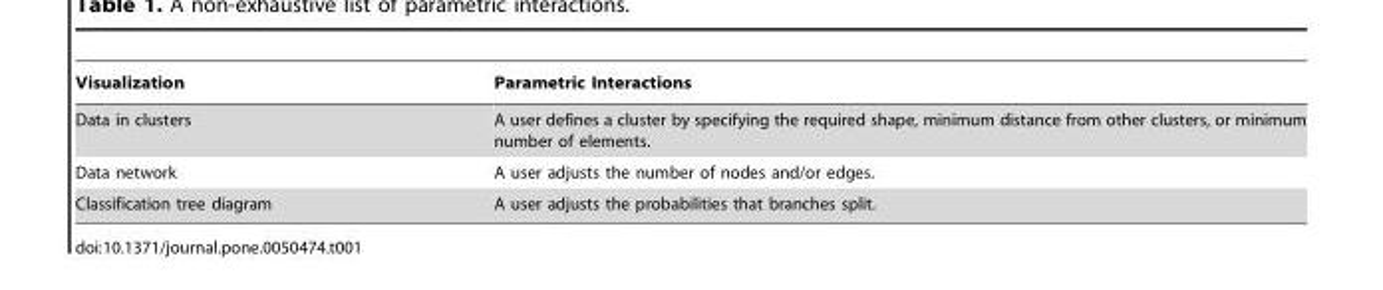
<table><thead><tr><td>Visualization</td><td>Parametric Interactions</td></tr></thead><tbody><tr><td>Data in clusters</td><td>A user defines a cluster by specifying the required shape, minimum distance from other clusters, or minimum number of elements.</td></tr><tr><td>Data network</td><td>A user adjusts the number of nodes and/or edges.</td></tr><tr><td>Classification tree diagram</td><td>A user adjusts the probabilities that branches split.</td></tr></tbody></table>